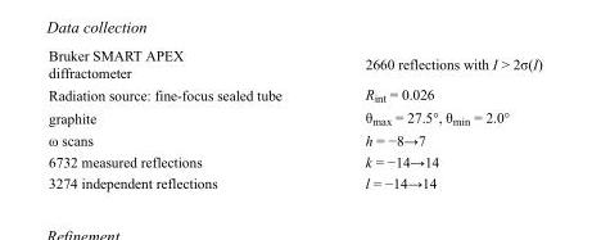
<table><tbody><tr><td>Bruker SMART APEX diffractometer</td><td>2660 reflections with I &gt; 2σ(I)</td></tr><tr><td>Radiation source: fine-focus sealed tube</td><td>R<sub>int</sub> = 0.026</td></tr><tr><td>graphite</td><td>θ<sub>max</sub> = 27.5°, θ<sub>min</sub> = 2.0°</td></tr><tr><td>ω scans</td><td>h = −8→7</td></tr><tr><td>6732 measured reflections</td><td>k = −14→14</td></tr><tr><td>3274 independent reflections</td><td>l = −14→14</td></tr></tbody></table>